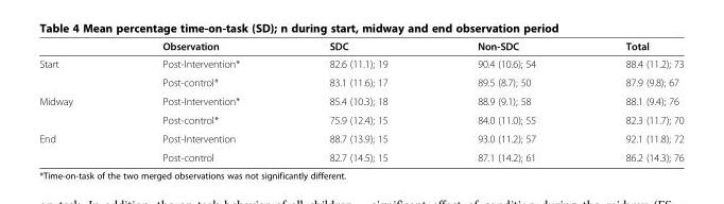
<table><thead><tr><td></td><td>Observation</td><td>SDC</td><td>Non-SDC</td><td>Total</td></tr></thead><tbody><tr><td rowspan="2">Start</td><td>Post-Intervention*</td><td>82.6 (11.1); 19</td><td>90.4 (10.6); 54</td><td>88.4 (11.2); 73</td></tr><tr><td>Post-control*</td><td>83.1 (11.6); 17</td><td>89.5 (8.7); 50</td><td>87.9 (9.8); 67</td></tr><tr><td rowspan="2">Midway</td><td>Post-Intervention*</td><td>85.4 (10.3); 18</td><td>88.9 (9.1); 58</td><td>88.1 (9.4); 76</td></tr><tr><td>Post-control*</td><td>75.9 (12.4); 15</td><td>84.0 (11.0); 55</td><td>82.3 (11.7); 70</td></tr><tr><td rowspan="2">End</td><td>Post-Intervention</td><td>88.7 (13.9); 15</td><td>93.0 (11.2); 57</td><td>92.1 (11.8); 72</td></tr><tr><td>Post-control</td><td>82.7 (14.5); 15</td><td>87.1 (14.2); 61</td><td>86.2 (14.3); 76</td></tr></tbody></table>